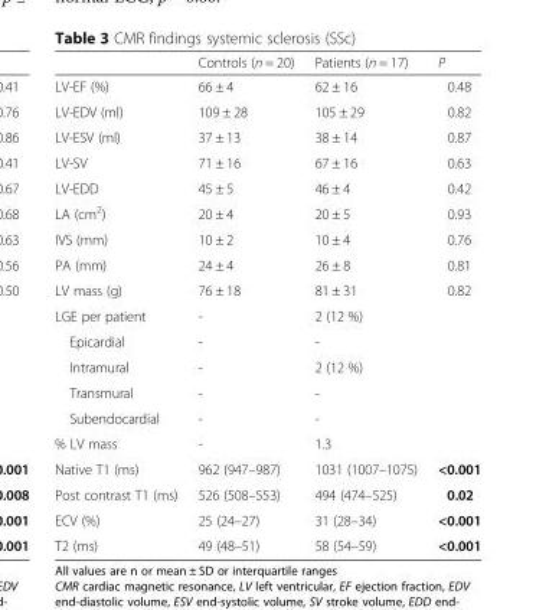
<table><thead><tr><td></td><td>Controls (n = 20)</td><td>Patients (n = 17)</td><td>P</td></tr></thead><tbody><tr><td>LV-EF (%)</td><td>66 ± 4</td><td>62 ± 16</td><td>0.48</td></tr><tr><td>LV-EDV (ml)</td><td>109 ± 28</td><td>105 ± 29</td><td>0.82</td></tr><tr><td>LV-ESV (ml)</td><td>37 ± 13</td><td>38 ± 14</td><td>0.87</td></tr><tr><td>LV-SV</td><td>71 ± 16</td><td>67 ± 16</td><td>0.63</td></tr><tr><td>LV-EDD</td><td>45 ± 5</td><td>46 ± 4</td><td>0.42</td></tr><tr><td>LA (cm<sup>2</sup>)</td><td>20 ± 4</td><td>20 ± 5</td><td>0.93</td></tr><tr><td>IVS (mm)</td><td>10 ± 2</td><td>10 ± 4</td><td>0.76</td></tr><tr><td>PA (mm)</td><td>24 ± 4</td><td>26 ± 8</td><td>0.81</td></tr><tr><td>LV mass (g)</td><td>76 ± 18</td><td>81 ± 31</td><td>0.82</td></tr><tr><td>LGE per patient</td><td>-</td><td>2 (12 %)</td><td></td></tr><tr><td>Epicardial</td><td>-</td><td>-</td><td></td></tr><tr><td>Intramural</td><td>-</td><td>2 (12 %)</td><td></td></tr><tr><td>Transmural</td><td>-</td><td>-</td><td></td></tr><tr><td>Subendocardial</td><td>-</td><td>-</td><td></td></tr><tr><td>% LV mass</td><td>-</td><td>1.3</td><td></td></tr><tr><td>Native T1 (ms)</td><td>962 (947–987)</td><td>1031 (1007–1075)</td><td>&lt;0.001</td></tr><tr><td>Post contrast T1 (ms)</td><td>526 (508–553)</td><td>494 (474–525)</td><td>0.02</td></tr><tr><td>ECV (%)</td><td>25 (24–27)</td><td>31 (28–34)</td><td>&lt;0.001</td></tr><tr><td>T2 (ms)</td><td>49 (48–51)</td><td>58 (54–59)</td><td>&lt;0.001</td></tr></tbody></table>